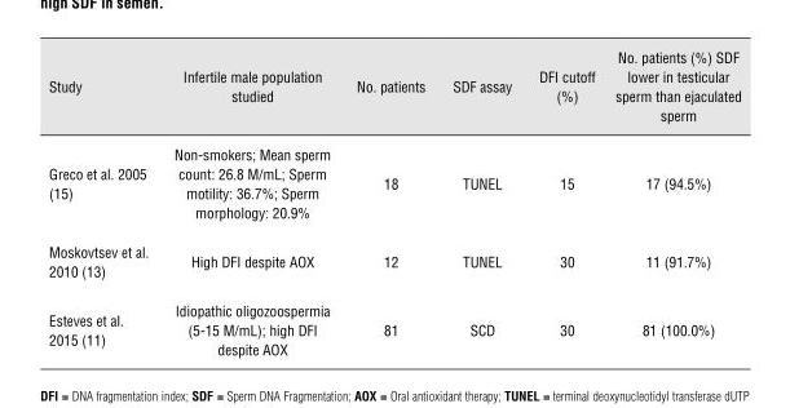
<table><thead><tr><td>Study</td><td>Infertile male population studied</td><td>No. patients</td><td>SDF assay</td><td>DFI cutoff (%)</td><td>No. patients (%) SDF lower in testicular sperm than ejaculated sperm</td></tr></thead><tbody><tr><td>Greco et al. 2005 (15)</td><td>Non-smokers; Mean sperm count: 26.8 M/mL; Sperm motility: 36.7%; Sperm morphology: 20.9%</td><td>18</td><td>TUNEL</td><td>15</td><td>17 (94.5%)</td></tr><tr><td>Moskovtsev et al. 2010 (13)</td><td>High DFI despite AOX</td><td>12</td><td>TUNEL</td><td>30</td><td>11 (91.7%)</td></tr><tr><td>Esteves et al. 2015 (11)</td><td>Idiopathic oligozoospermia (5-15 M/mL); high DFI despite AOX</td><td>81</td><td>SCD</td><td>30</td><td>81 (100.0%)</td></tr></tbody></table>